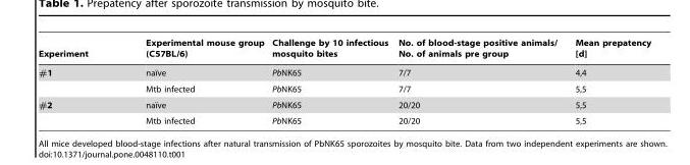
<table><thead><tr><td>Experiment</td><td>Experimental mouse group (C57BL/6)</td><td>Challenge by 10 infectious mosquito bites</td><td>No. of blood-stage positive animals/ No. of animals pre group</td><td>Mean prepatency [d]</td></tr></thead><tbody><tr><td rowspan="2">#1</td><td>naı¨ve</td><td>PbNK65</td><td>7/7</td><td>4,4</td></tr><tr><td>Mtb infected</td><td>PbNK65</td><td>7/7</td><td>5,5</td></tr><tr><td rowspan="2">#2</td><td>naı¨ve</td><td>PbNK65</td><td>20/20</td><td>5,5</td></tr><tr><td>Mtb infected</td><td>PbNK65</td><td>20/20</td><td>5,5</td></tr></tbody></table>